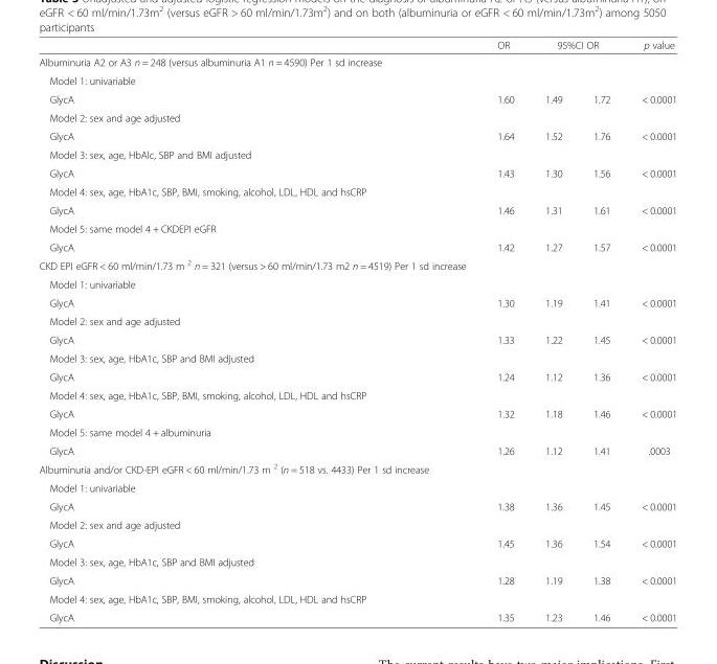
<table><thead><tr><td rowspan="2">Albuminuria A2 or A3 n = 248 (versus albuminuria A1 n = 4590) Per 1 sd increase</td><td rowspan="2">OR</td><td colspan="2">95%CI OR</td><td rowspan="2">p value</td></tr><tr><td></td><td></td></tr></thead><tbody><tr><td colspan="5">Model 1: univariable</td></tr><tr><td>GlycA</td><td>1.60</td><td>1.49</td><td>1.72</td><td>&lt; 0.0001</td></tr><tr><td colspan="5">Model 2: sex and age adjusted</td></tr><tr><td>GlycA</td><td>1.64</td><td>1.52</td><td>1.76</td><td>&lt; 0.0001</td></tr><tr><td colspan="5">Model 3: sex, age, HbAlc, SBP and BMI adjusted</td></tr><tr><td>GlycA</td><td>1.43</td><td>1.30</td><td>1.56</td><td>&lt; 0.0001</td></tr><tr><td colspan="5">Model 4: sex, age, HbA1c, SBP, BMI, smoking, alcohol, LDL, HDL and hsCRP</td></tr><tr><td>GlycA</td><td>1.46</td><td>1.31</td><td>1.61</td><td>&lt; 0.0001</td></tr><tr><td colspan="5">Model 5: same model 4 + CKDEPI eGFR</td></tr><tr><td>GlycA</td><td>1.42</td><td>1.27</td><td>1.57</td><td>&lt; 0.0001</td></tr><tr><td colspan="5">CKD EPI eGFR &lt; 60 ml/min/1.73 m <sup>2</sup> n = 321 (versus &gt; 60 ml/min/1.73 m2 n = 4519) Per 1 sd increase</td></tr><tr><td colspan="5">Model 1: univariable</td></tr><tr><td>GlycA</td><td>1.30</td><td>1.19</td><td>1.41</td><td>&lt; 0.0001</td></tr><tr><td colspan="5">Model 2: sex and age adjusted</td></tr><tr><td>GlycA</td><td>1.33</td><td>1.22</td><td>1.45</td><td>&lt; 0.0001</td></tr><tr><td colspan="5">Model 3: sex, age, HbA1c, SBP and BMI adjusted</td></tr><tr><td>GlycA</td><td>1.24</td><td>1.12</td><td>1.36</td><td>&lt; 0.0001</td></tr><tr><td colspan="5">Model 4: sex, age, HbA1c, SBP, BMI, smoking, alcohol, LDL, HDL and hsCRP</td></tr><tr><td>GlycA</td><td>1.32</td><td>1.18</td><td>1.46</td><td>&lt; 0.0001</td></tr><tr><td colspan="5">Model 5: same model 4 + albuminuria</td></tr><tr><td>GlycA</td><td>1.26</td><td>1.12</td><td>1.41</td><td>.0003</td></tr><tr><td colspan="5">Albuminuria and/or CKD-EPI eGFR &lt; 60 ml/min/1.73 m <sup>2</sup> (n = 518 vs. 4433) Per 1 sd increase</td></tr><tr><td colspan="5">Model 1: univariable</td></tr><tr><td>GlycA</td><td>1.38</td><td>1.36</td><td>1.45</td><td>&lt; 0.0001</td></tr><tr><td colspan="5">Model 2: sex and age adjusted</td></tr><tr><td>GlycA</td><td>1.45</td><td>1.36</td><td>1.54</td><td>&lt; 0.0001</td></tr><tr><td colspan="5">Model 3: sex, age, HbA1c, SBP and BMI adjusted</td></tr><tr><td>GlycA</td><td>1.28</td><td>1.19</td><td>1.38</td><td>&lt; 0.0001</td></tr><tr><td colspan="5">Model 4: sex, age, HbA1c, SBP, BMI, smoking, alcohol, LDL, HDL and hsCRP</td></tr><tr><td>GlycA</td><td>1.35</td><td>1.23</td><td>1.46</td><td>&lt; 0.0001</td></tr></tbody></table>